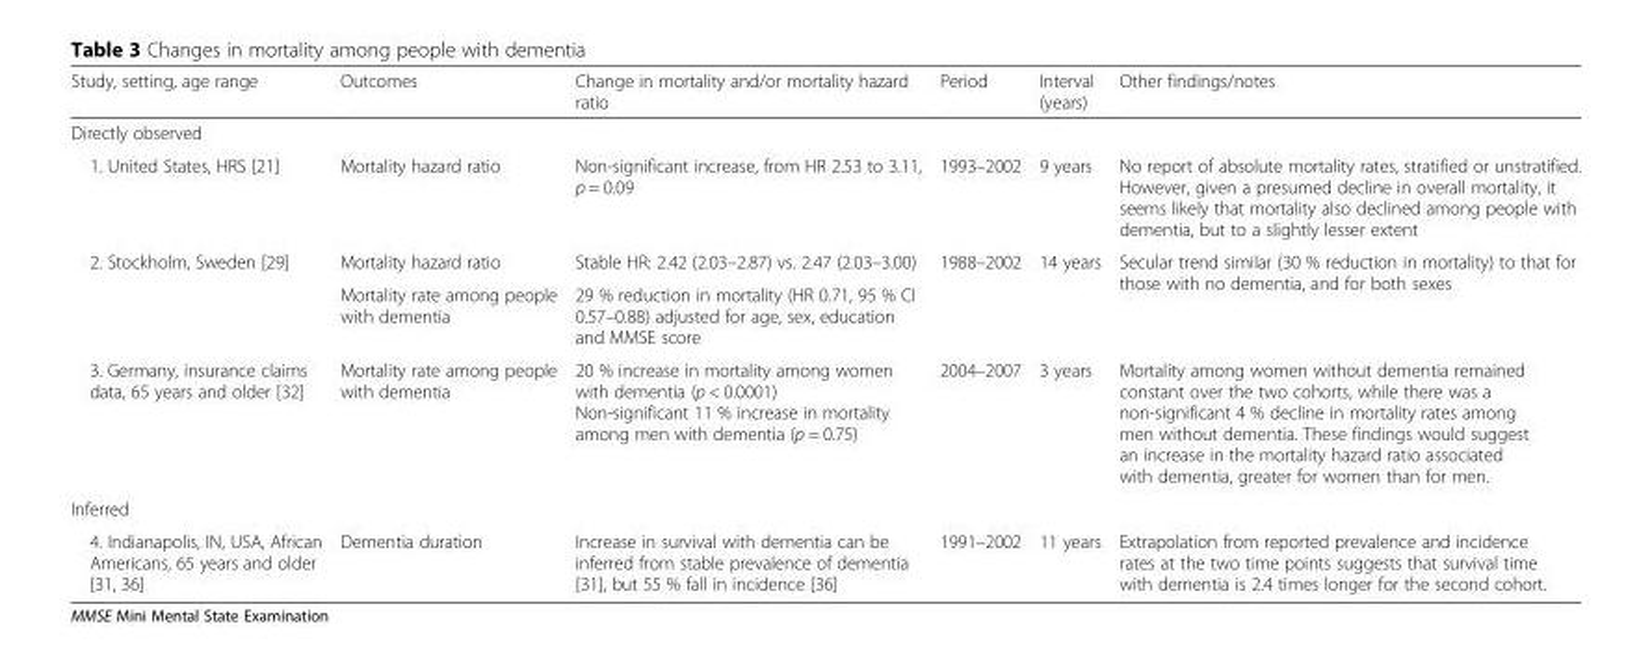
<table><thead><tr><td>Study, setting, age range</td><td>Outcomes</td><td>Change in mortality and/or mortality hazard ratio</td><td>Period</td><td>Interval (years)</td><td>Other findings/notes</td></tr></thead><tbody><tr><td colspan="6">Directly observed</td></tr><tr><td>1. United States, HRS [21]</td><td>Mortality hazard ratio</td><td>Non-significant increase, from HR 2.53 to 3.11, p = 0.09</td><td>1993–2002</td><td>9 years</td><td>No report of absolute mortality rates, stratified or unstratified. However, given a presumed decline in overall mortality, it seems likely that mortality also declined among people with dementia, but to a slightly lesser extent</td></tr><tr><td rowspan="2">2. Stockholm, Sweden [29]</td><td>Mortality hazard ratio</td><td>Stable HR: 2.42 (2.03–2.87) vs. 2.47 (2.03–3.00)</td><td rowspan="2">1988–2002</td><td rowspan="2">14 years</td><td rowspan="2">Secular trend similar (30 % reduction in mortality) to that for those with no dementia, and for both sexes</td></tr><tr><td>Mortality rate among people with dementia</td><td>29 % reduction in mortality (HR 0.71, 95 % CI 0.57–0.88) adjusted for age, sex, education and MMSE score</td></tr><tr><td>3. Germany, insurance claims data, 65 years and older [32]</td><td>Mortality rate among people with dementia</td><td>20 % increase in mortality among women with dementia (p &lt; 0.0001) Non-significant 11 % increase in mortality among men with dementia (p = 0.75)</td><td>2004–2007</td><td>3 years</td><td>Mortality among women without dementia remained constant over the two cohorts, while there was a non-significant 4 % decline in mortality rates among men without dementia. These findings would suggest an increase in the mortality hazard ratio associated with dementia, greater for women than for men.</td></tr><tr><td colspan="6">Inferred</td></tr><tr><td>4. Indianapolis, IN, USA, African Americans, 65 years and older [31, 36]</td><td>Dementia duration</td><td>Increase in survival with dementia can be inferred from stable prevalence of dementia [31], but 55 % fall in incidence [36]</td><td>1991–2002</td><td>11 years</td><td>Extrapolation from reported prevalence and incidence rates at the two time points suggests that survival time with dementia is 2.4 times longer for the second cohort.</td></tr></tbody></table>